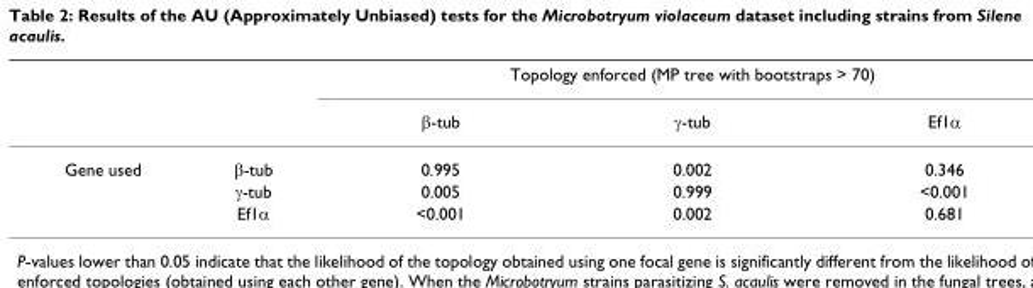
<table><thead><tr><td rowspan="2"></td><td rowspan="2"></td><td colspan="3">Topology enforced (MP tree with bootstraps &gt; 70)</td></tr><tr><td>β-tub</td><td>γ-tub</td><td>Ef1α</td></tr></thead><tbody><tr><td rowspan="3">Gene used</td><td>β-tub</td><td>0.995</td><td>0.002</td><td>0.346</td></tr><tr><td>γ-tub</td><td>0.005</td><td>0.999</td><td>&lt;0.001</td></tr><tr><td>Ef1α</td><td>&lt;0.001</td><td>0.002</td><td>0.681</td></tr></tbody></table>